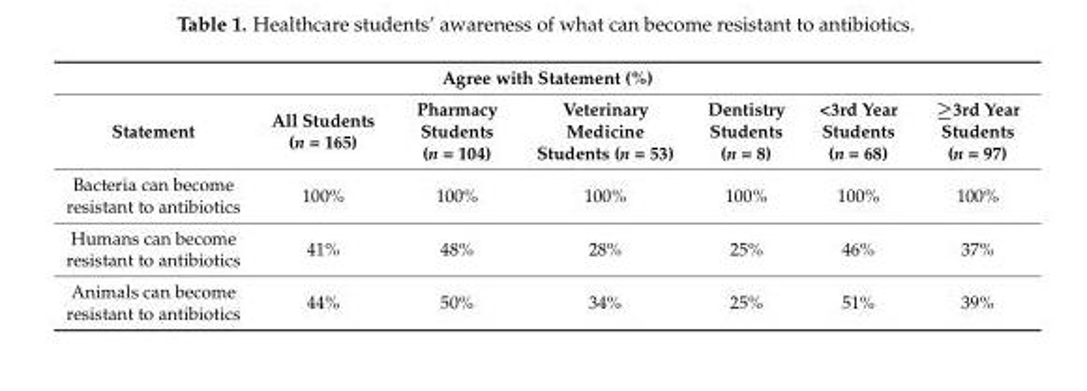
<table><thead><tr><td colspan="7">Agree with Statement (%)</td></tr><tr><td>Statement</td><td>All Students (n = 165)</td><td>Pharmacy Students (n = 104)</td><td>Veterinary Medicine Students (n = 53)</td><td>Dentistry Students (n = 8)</td><td>&lt;3rd Year Students (n = 68)</td><td>≥3rd Year Students (n = 97)</td></tr></thead><tbody><tr><td>Bacteria can become resistant to antibiotics</td><td>100%</td><td>100%</td><td>100%</td><td>100%</td><td>100%</td><td>100%</td></tr><tr><td>Humans can become resistant to antibiotics</td><td>41%</td><td>48%</td><td>28%</td><td>25%</td><td>46%</td><td>37%</td></tr><tr><td>Animals can become resistant to antibiotics</td><td>44%</td><td>50%</td><td>34%</td><td>25%</td><td>51%</td><td>39%</td></tr></tbody></table>